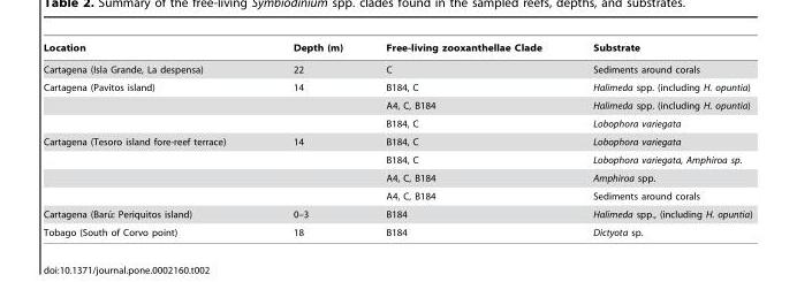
<table><thead><tr><td>Location</td><td>Depth (m)</td><td>Free-living zooxanthellae Clade</td><td>Substrate</td></tr></thead><tbody><tr><td>Cartagena (Isla Grande, La despensa)</td><td>22</td><td>C</td><td>Sediments around corals</td></tr><tr><td rowspan="3">Cartagena (Pavitos island)</td><td>14</td><td>B184, C</td><td>Halimeda spp. (including H. opuntia)</td></tr><tr><td></td><td>A4, C, B184</td><td>Halimeda spp. (including H. opuntia)</td></tr><tr><td></td><td>B184, C</td><td>Lobophora variegata</td></tr><tr><td rowspan="4">Cartagena (Tesoro island fore-reef terrace)</td><td>14</td><td>B184, C</td><td>Lobophora variegata</td></tr><tr><td></td><td>B184, C</td><td>Lobophora variegata, Amphiroa sp.</td></tr><tr><td></td><td>A4, C, B184</td><td>Amphiroa spp.</td></tr><tr><td></td><td>A4, C, B184</td><td>Sediments around corals</td></tr><tr><td>Cartagena (Baru´: Periquitos island)</td><td>0–3</td><td>B184</td><td>Halimeda spp., (including H. opuntia)</td></tr><tr><td>Tobago (South of Corvo point)</td><td>18</td><td>B184</td><td>Dictyota sp.</td></tr></tbody></table>